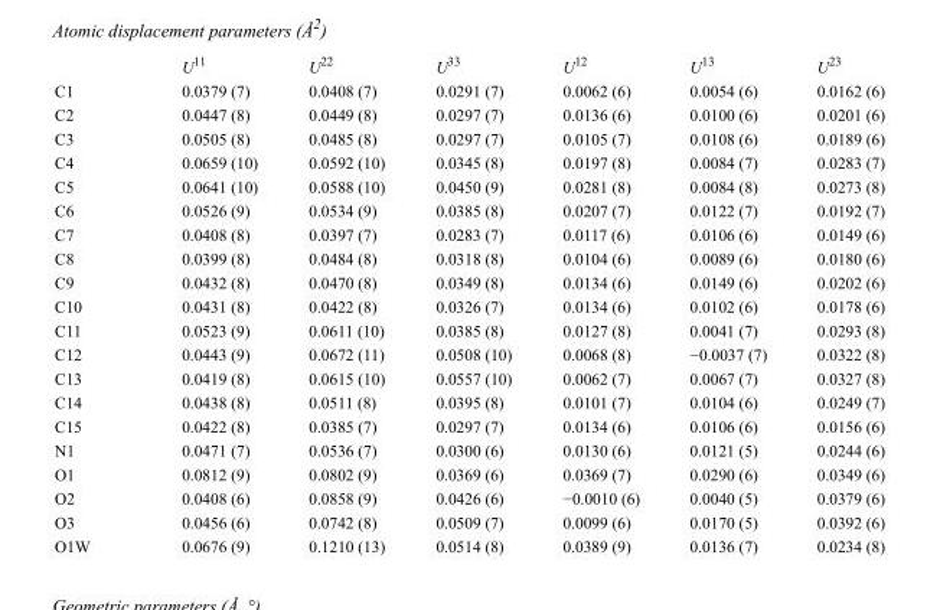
<table><thead><tr><td></td><td>U<sup>11</sup></td><td>U<sup>22</sup></td><td>U<sup>33</sup></td><td>U<sup>12</sup></td><td>U<sup>13</sup></td><td>U<sup>23</sup></td></tr></thead><tbody><tr><td>C1</td><td>0.0379 (7)</td><td>0.0408 (7)</td><td>0.0291 (7)</td><td>0.0062 (6)</td><td>0.0054 (6)</td><td>0.0162 (6)</td></tr><tr><td>C2</td><td>0.0447 (8)</td><td>0.0449 (8)</td><td>0.0297 (7)</td><td>0.0136 (6)</td><td>0.0100 (6)</td><td>0.0201 (6)</td></tr><tr><td>C3</td><td>0.0505 (8)</td><td>0.0485 (8)</td><td>0.0297 (7)</td><td>0.0105 (7)</td><td>0.0108 (6)</td><td>0.0189 (6)</td></tr><tr><td>C4</td><td>0.0659 (10)</td><td>0.0592 (10)</td><td>0.0345 (8)</td><td>0.0197 (8)</td><td>0.0084 (7)</td><td>0.0283 (7)</td></tr><tr><td>C5</td><td>0.0641 (10)</td><td>0.0588 (10)</td><td>0.0450 (9)</td><td>0.0281 (8)</td><td>0.0084 (8)</td><td>0.0273 (8)</td></tr><tr><td>C6</td><td>0.0526 (9)</td><td>0.0534 (9)</td><td>0.0385 (8)</td><td>0.0207 (7)</td><td>0.0122 (7)</td><td>0.0192 (7)</td></tr><tr><td>C7</td><td>0.0408 (8)</td><td>0.0397 (7)</td><td>0.0283 (7)</td><td>0.0117 (6)</td><td>0.0106 (6)</td><td>0.0149 (6)</td></tr><tr><td>C8</td><td>0.0399 (8)</td><td>0.0484 (8)</td><td>0.0318 (8)</td><td>0.0104 (6)</td><td>0.0089 (6)</td><td>0.0180 (6)</td></tr><tr><td>C9</td><td>0.0432 (8)</td><td>0.0470 (8)</td><td>0.0349 (8)</td><td>0.0134 (6)</td><td>0.0149 (6)</td><td>0.0202 (6)</td></tr><tr><td>C10</td><td>0.0431 (8)</td><td>0.0422 (8)</td><td>0.0326 (7)</td><td>0.0134 (6)</td><td>0.0102 (6)</td><td>0.0178 (6)</td></tr><tr><td>C11</td><td>0.0523 (9)</td><td>0.0611 (10)</td><td>0.0385 (8)</td><td>0.0127 (8)</td><td>0.0041 (7)</td><td>0.0293 (8)</td></tr><tr><td>C12</td><td>0.0443 (9)</td><td>0.0672 (11)</td><td>0.0508 (10)</td><td>0.0068 (8)</td><td>−0.0037 (7)</td><td>0.0322 (8)</td></tr><tr><td>C13</td><td>0.0419 (8)</td><td>0.0615 (10)</td><td>0.0557 (10)</td><td>0.0062 (7)</td><td>0.0067 (7)</td><td>0.0327 (8)</td></tr><tr><td>C14</td><td>0.0438 (8)</td><td>0.0511 (8)</td><td>0.0395 (8)</td><td>0.0101 (7)</td><td>0.0104 (6)</td><td>0.0249 (7)</td></tr><tr><td>C15</td><td>0.0422 (8)</td><td>0.0385 (7)</td><td>0.0297 (7)</td><td>0.0134 (6)</td><td>0.0106 (6)</td><td>0.0156 (6)</td></tr><tr><td>N1</td><td>0.0471 (7)</td><td>0.0536 (7)</td><td>0.0300 (6)</td><td>0.0130 (6)</td><td>0.0121 (5)</td><td>0.0244 (6)</td></tr><tr><td>O1</td><td>0.0812 (9)</td><td>0.0802 (9)</td><td>0.0369 (6)</td><td>0.0369 (7)</td><td>0.0290 (6)</td><td>0.0349 (6)</td></tr><tr><td>O2</td><td>0.0408 (6)</td><td>0.0858 (9)</td><td>0.0426 (6)</td><td>−0.0010 (6)</td><td>0.0040 (5)</td><td>0.0379 (6)</td></tr><tr><td>O3</td><td>0.0456 (6)</td><td>0.0742 (8)</td><td>0.0509 (7)</td><td>0.0099 (6)</td><td>0.0170 (5)</td><td>0.0392 (6)</td></tr><tr><td>O1W</td><td>0.0676 (9)</td><td>0.1210 (13)</td><td>0.0514 (8)</td><td>0.0389 (9)</td><td>0.0136 (7)</td><td>0.0234 (8)</td></tr></tbody></table>